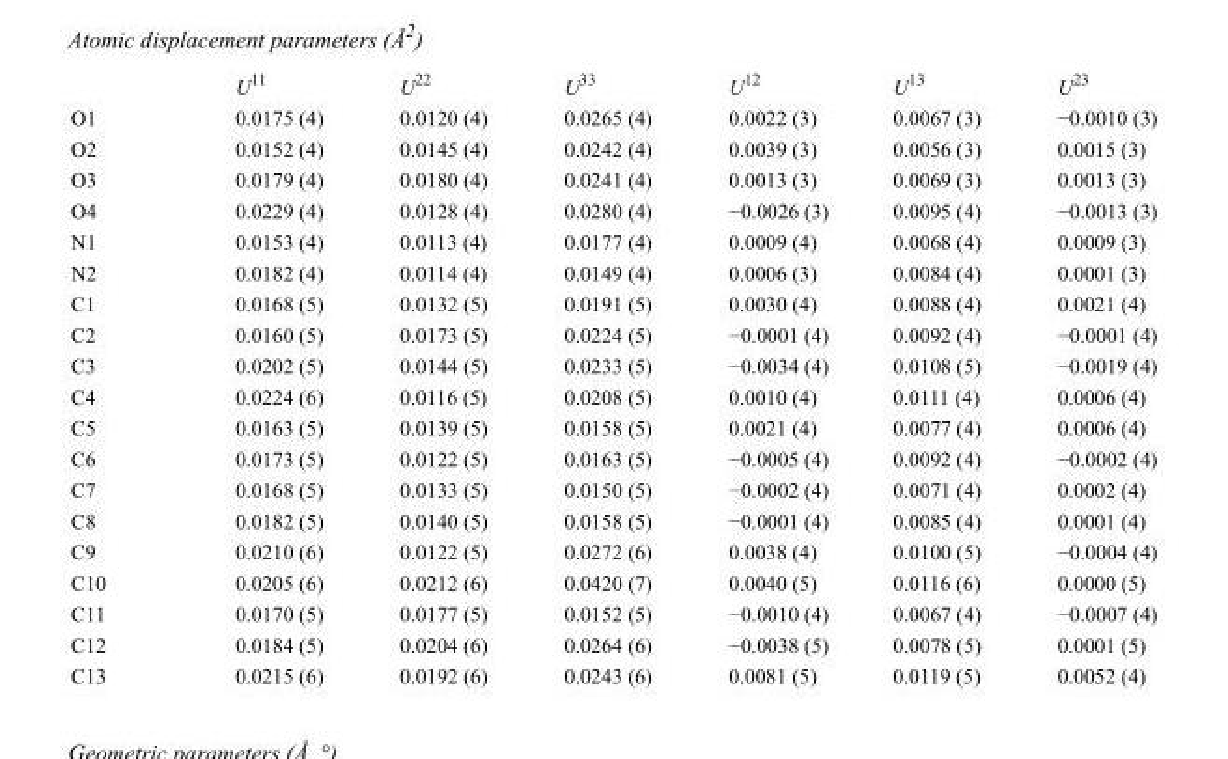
<table><thead><tr><td></td><td>U<sup>11</sup></td><td>U<sup>22</sup></td><td>U<sup>33</sup></td><td>U<sup>12</sup></td><td>U<sup>13</sup></td><td>U<sup>23</sup></td></tr></thead><tbody><tr><td>O1</td><td>0.0175 (4)</td><td>0.0120 (4)</td><td>0.0265 (4)</td><td>0.0022 (3)</td><td>0.0067 (3)</td><td>−0.0010 (3)</td></tr><tr><td>O2</td><td>0.0152 (4)</td><td>0.0145 (4)</td><td>0.0242 (4)</td><td>0.0039 (3)</td><td>0.0056 (3)</td><td>0.0015 (3)</td></tr><tr><td>O3</td><td>0.0179 (4)</td><td>0.0180 (4)</td><td>0.0241 (4)</td><td>0.0013 (3)</td><td>0.0069 (3)</td><td>0.0013 (3)</td></tr><tr><td>O4</td><td>0.0229 (4)</td><td>0.0128 (4)</td><td>0.0280 (4)</td><td>−0.0026 (3)</td><td>0.0095 (4)</td><td>−0.0013 (3)</td></tr><tr><td>N1</td><td>0.0153 (4)</td><td>0.0113 (4)</td><td>0.0177 (4)</td><td>0.0009 (4)</td><td>0.0068 (4)</td><td>0.0009 (3)</td></tr><tr><td>N2</td><td>0.0182 (4)</td><td>0.0114 (4)</td><td>0.0149 (4)</td><td>0.0006 (3)</td><td>0.0084 (4)</td><td>0.0001 (3)</td></tr><tr><td>C1</td><td>0.0168 (5)</td><td>0.0132 (5)</td><td>0.0191 (5)</td><td>0.0030 (4)</td><td>0.0088 (4)</td><td>0.0021 (4)</td></tr><tr><td>C2</td><td>0.0160 (5)</td><td>0.0173 (5)</td><td>0.0224 (5)</td><td>−0.0001 (4)</td><td>0.0092 (4)</td><td>−0.0001 (4)</td></tr><tr><td>C3</td><td>0.0202 (5)</td><td>0.0144 (5)</td><td>0.0233 (5)</td><td>−0.0034 (4)</td><td>0.0108 (5)</td><td>−0.0019 (4)</td></tr><tr><td>C4</td><td>0.0224 (6)</td><td>0.0116 (5)</td><td>0.0208 (5)</td><td>0.0010 (4)</td><td>0.0111 (4)</td><td>0.0006 (4)</td></tr><tr><td>C5</td><td>0.0163 (5)</td><td>0.0139 (5)</td><td>0.0158 (5)</td><td>0.0021 (4)</td><td>0.0077 (4)</td><td>0.0006 (4)</td></tr><tr><td>C6</td><td>0.0173 (5)</td><td>0.0122 (5)</td><td>0.0163 (5)</td><td>−0.0005 (4)</td><td>0.0092 (4)</td><td>−0.0002 (4)</td></tr><tr><td>C7</td><td>0.0168 (5)</td><td>0.0133 (5)</td><td>0.0150 (5)</td><td>−0.0002 (4)</td><td>0.0071 (4)</td><td>0.0002 (4)</td></tr><tr><td>C8</td><td>0.0182 (5)</td><td>0.0140 (5)</td><td>0.0158 (5)</td><td>−0.0001 (4)</td><td>0.0085 (4)</td><td>0.0001 (4)</td></tr><tr><td>C9</td><td>0.0210 (6)</td><td>0.0122 (5)</td><td>0.0272 (6)</td><td>0.0038 (4)</td><td>0.0100 (5)</td><td>−0.0004 (4)</td></tr><tr><td>C10</td><td>0.0205 (6)</td><td>0.0212 (6)</td><td>0.0420 (7)</td><td>0.0040 (5)</td><td>0.0116 (6)</td><td>0.0000 (5)</td></tr><tr><td>C11</td><td>0.0170 (5)</td><td>0.0177 (5)</td><td>0.0152 (5)</td><td>−0.0010 (4)</td><td>0.0067 (4)</td><td>−0.0007 (4)</td></tr><tr><td>C12</td><td>0.0184 (5)</td><td>0.0204 (6)</td><td>0.0264 (6)</td><td>−0.0038 (5)</td><td>0.0078 (5)</td><td>0.0001 (5)</td></tr><tr><td>C13</td><td>0.0215 (6)</td><td>0.0192 (6)</td><td>0.0243 (6)</td><td>0.0081 (5)</td><td>0.0119 (5)</td><td>0.0052 (4)</td></tr></tbody></table>